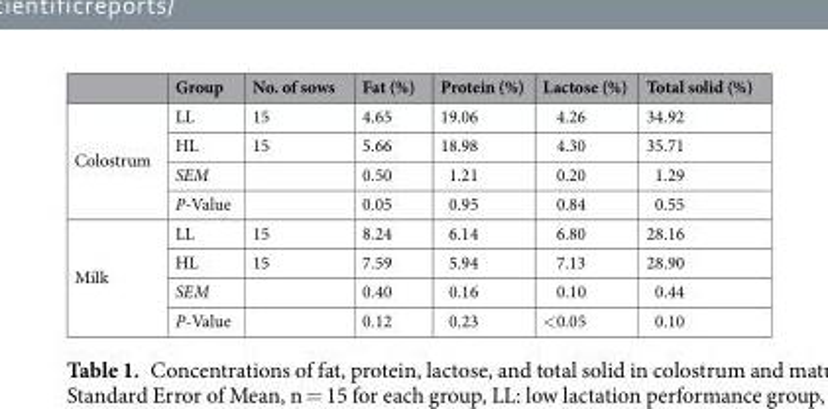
<table><thead><tr><td></td><td>Group</td><td>No. of sows</td><td>Fat (%)</td><td>Protein (%)</td><td>Lactose (%)</td><td>Total solid (%)</td></tr></thead><tbody><tr><td rowspan="4">Colostrum</td><td>LL</td><td>15</td><td>4.65</td><td>19.06</td><td>4.26</td><td>34.92</td></tr><tr><td>HL</td><td>15</td><td>5.66</td><td>18.98</td><td>4.30</td><td>35.71</td></tr><tr><td>SEM</td><td></td><td>0.50</td><td>1.21</td><td>0.20</td><td>1.29</td></tr><tr><td>P-Value</td><td></td><td>0.05</td><td>0.95</td><td>0.84</td><td>0.55</td></tr><tr><td rowspan="4">Milk</td><td>LL</td><td>15</td><td>8.24</td><td>6.14</td><td>6.80</td><td>28.16</td></tr><tr><td>HL</td><td>15</td><td>7.59</td><td>5.94</td><td>7.13</td><td>28.90</td></tr><tr><td>SEM</td><td></td><td>0.40</td><td>0.16</td><td>0.10</td><td>0.44</td></tr><tr><td>P-Value</td><td></td><td>0.12</td><td>0.23</td><td>&lt;0.05</td><td>0.10</td></tr></tbody></table>